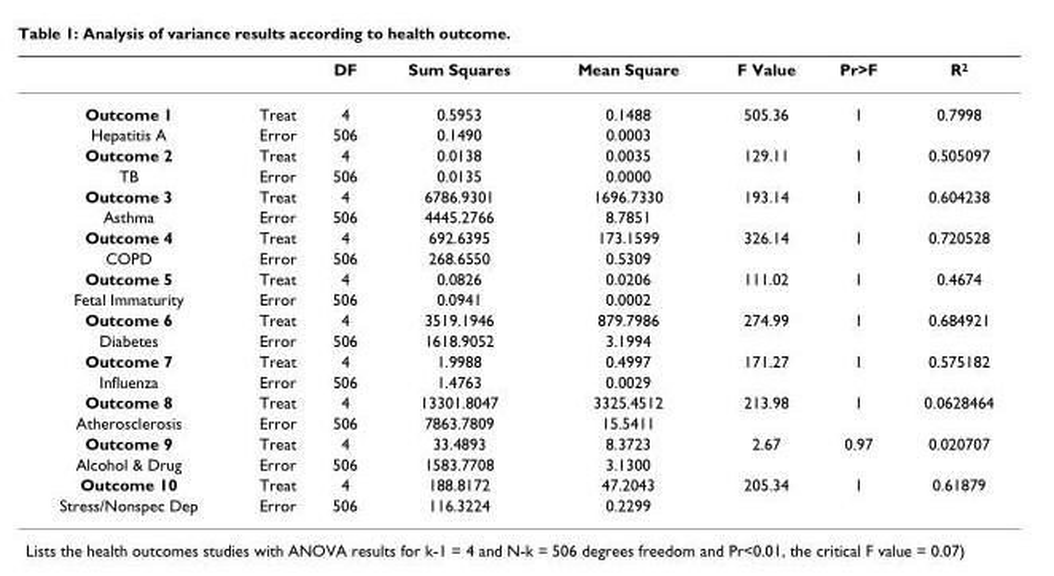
<table><thead><tr><td></td><td></td><td>DF</td><td>Sum Squares</td><td>Mean Square</td><td>F Value</td><td>Pr&gt;F</td><td>R<sup>2</sup></td></tr></thead><tbody><tr><td>Outcome 1</td><td>Treat</td><td>4</td><td>0.5953</td><td>0.1488</td><td>505.36</td><td>1</td><td>0.7998</td></tr><tr><td>Hepatitis A</td><td>Error</td><td>506</td><td>0.1490</td><td>0.0003</td><td></td><td></td><td></td></tr><tr><td>Outcome 2</td><td>Treat</td><td>4</td><td>0.0138</td><td>0.0035</td><td>129.11</td><td>1</td><td>0.505097</td></tr><tr><td>TB</td><td>Error</td><td>506</td><td>0.0135</td><td>0.0000</td><td></td><td></td><td></td></tr><tr><td>Outcome 3</td><td>Treat</td><td>4</td><td>6786.9301</td><td>1696.7330</td><td>193.14</td><td>1</td><td>0.604238</td></tr><tr><td>Asthma</td><td>Error</td><td>506</td><td>4445.2766</td><td>8.7851</td><td></td><td></td><td></td></tr><tr><td>Outcome 4</td><td>Treat</td><td>4</td><td>692.6395</td><td>173.1599</td><td>326.14</td><td>1</td><td>0.720528</td></tr><tr><td>COPD</td><td>Error</td><td>506</td><td>268.6550</td><td>0.5309</td><td></td><td></td><td></td></tr><tr><td>Outcome 5</td><td>Treat</td><td>4</td><td>0.0826</td><td>0.0206</td><td>111.02</td><td>1</td><td>0.4674</td></tr><tr><td>Fetal Immaturity</td><td>Error</td><td>506</td><td>0.0941</td><td>0.0002</td><td></td><td></td><td></td></tr><tr><td>Outcome 6</td><td>Treat</td><td>4</td><td>3519.1946</td><td>879.7986</td><td>274.99</td><td>1</td><td>0.684921</td></tr><tr><td>Diabetes</td><td>Error</td><td>506</td><td>1618.9052</td><td>3.1994</td><td></td><td></td><td></td></tr><tr><td>Outcome 7</td><td>Treat</td><td>4</td><td>1.9988</td><td>0.4997</td><td>171.27</td><td>1</td><td>0.575182</td></tr><tr><td>Influenza</td><td>Error</td><td>506</td><td>1.4763</td><td>0.0029</td><td></td><td></td><td></td></tr><tr><td>Outcome 8</td><td>Treat</td><td>4</td><td>13301.8047</td><td>3325.4512</td><td>213.98</td><td>1</td><td>0.0628464</td></tr><tr><td>Atherosclerosis</td><td>Error</td><td>506</td><td>7863.7809</td><td>15.5411</td><td></td><td></td><td></td></tr><tr><td>Outcome 9</td><td>Treat</td><td>4</td><td>33.4893</td><td>8.3723</td><td>2.67</td><td>0.97</td><td>0.020707</td></tr><tr><td>Alcohol &amp; Drug</td><td>Error</td><td>506</td><td>1583.7708</td><td>3.1300</td><td></td><td></td><td></td></tr><tr><td>Outcome 10</td><td>Treat</td><td>4</td><td>188.8172</td><td>47.2043</td><td>205.34</td><td>1</td><td>0.61879</td></tr><tr><td>Stress/Nonspec Dep</td><td>Error</td><td>506</td><td>116.3224</td><td>0.2299</td><td></td><td></td><td></td></tr></tbody></table>